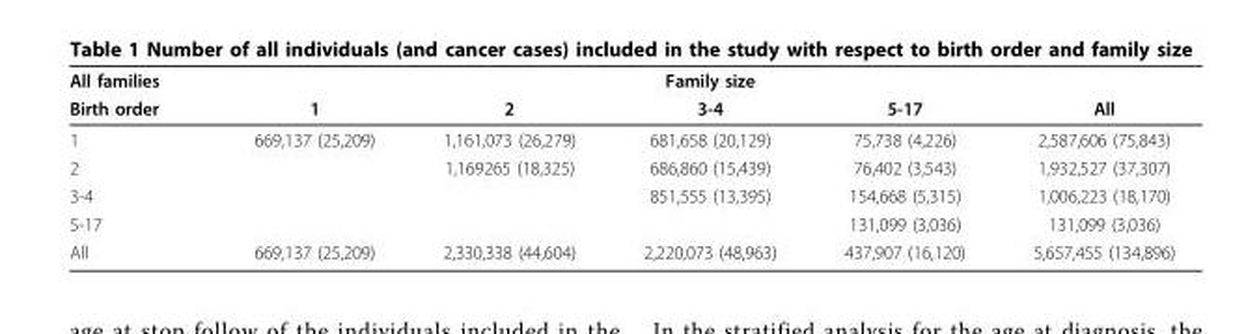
<table><thead><tr><td rowspan="2">All families Birth order</td><td rowspan="2">1</td><td rowspan="2">2</td><td rowspan="2">Family size 3-4</td><td rowspan="2">5-17</td><td rowspan="2">All</td></tr><tr></tr></thead><tbody><tr><td>1</td><td>669,137 (25,209)</td><td>1,161,073 (26,279)</td><td>681,658 (20,129)</td><td>75,738 (4,226)</td><td>2,587,606 (75,843)</td></tr><tr><td>2</td><td></td><td>1,169265 (18,325)</td><td>686,860 (15,439)</td><td>76,402 (3,543)</td><td>1,932,527 (37,307)</td></tr><tr><td>3-4</td><td></td><td></td><td>851,555 (13,395)</td><td>154,668 (5,315)</td><td>1,006,223 (18,170)</td></tr><tr><td>5-17</td><td></td><td></td><td></td><td>131,099 (3,036)</td><td>131,099 (3,036)</td></tr><tr><td>All</td><td>669,137 (25,209)</td><td>2,330,338 (44,604)</td><td>2,220,073 (48,963)</td><td>437,907 (16,120)</td><td>5,657,455 (134,896)</td></tr></tbody></table>